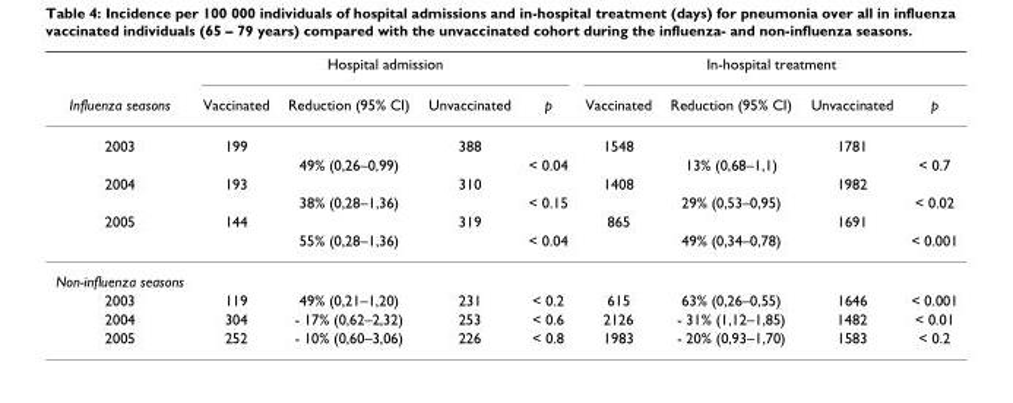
<table><thead><tr><td rowspan="2">Influenza seasons</td><td colspan="4">Hospital admission</td><td colspan="4">In-hospital treatment</td></tr><tr><td>Vaccinated</td><td>Reduction (95% CI)</td><td>Unvaccinated</td><td>p</td><td>Vaccinated</td><td>Reduction (95% CI)</td><td>Unvaccinated</td><td>p</td></tr></thead><tbody><tr><td rowspan="2">2003</td><td>199</td><td></td><td>388</td><td></td><td>1548</td><td></td><td>1781</td><td></td></tr><tr><td></td><td>49% (0,26–0,99)</td><td></td><td>&lt; 0.04</td><td></td><td>13% (0,68–1,1)</td><td></td><td>&lt; 0.7</td></tr><tr><td rowspan="2">2004</td><td>193</td><td></td><td>310</td><td></td><td>1408</td><td></td><td>1982</td><td></td></tr><tr><td></td><td>38% (0,28–1,36)</td><td></td><td>&lt; 0.15</td><td></td><td>29% (0,53–0,95)</td><td></td><td>&lt; 0.02</td></tr><tr><td rowspan="2">2005</td><td>144</td><td></td><td>319</td><td></td><td>865</td><td></td><td>1691</td><td></td></tr><tr><td></td><td>55% (0,28–1,36)</td><td></td><td>&lt; 0.04</td><td></td><td>49% (0,34–0,78)</td><td></td><td>&lt; 0.001</td></tr><tr><td colspan="9">Non-influenza seasons</td></tr><tr><td>2003</td><td>119</td><td>49% (0,21–1,20)</td><td>231</td><td>&lt; 0.2</td><td>615</td><td>63% (0,26–0,55)</td><td>1646</td><td>&lt; 0.001</td></tr><tr><td>2004</td><td>304</td><td>- 17% (0,62–2,32)</td><td>253</td><td>&lt; 0.6</td><td>2126</td><td>- 31% (1,12–1,85)</td><td>1482</td><td>&lt; 0.01</td></tr><tr><td>2005</td><td>252</td><td>- 10% (0,60–3,06)</td><td>226</td><td>&lt; 0.8</td><td>1983</td><td>- 20% (0,93–1,70)</td><td>1583</td><td>&lt; 0.2</td></tr></tbody></table>